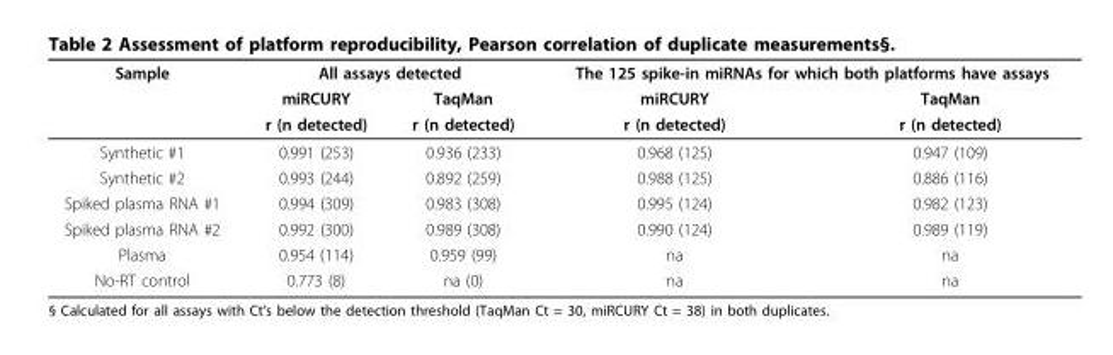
<table><thead><tr><td rowspan="3">Sample</td><td colspan="2">All assays detected</td><td colspan="2">The 125 spike-in miRNAs for which both platforms have assays</td></tr><tr><td rowspan="2">miRCURY r (n detected)</td><td rowspan="2">TaqMan r (n detected)</td><td rowspan="2">miRCURY r (n detected)</td><td rowspan="2">TaqMan r (n detected)</td></tr><tr></tr></thead><tbody><tr><td>Synthetic #1</td><td>0.991 (253)</td><td>0.936 (233)</td><td>0.968 (125)</td><td>0.947 (109)</td></tr><tr><td>Synthetic #2</td><td>0.993 (244)</td><td>0.892 (259)</td><td>0.988 (125)</td><td>0.886 (116)</td></tr><tr><td>Spiked plasma RNA #1</td><td>0.994 (309)</td><td>0.983 (308)</td><td>0.995 (124)</td><td>0.982 (123)</td></tr><tr><td>Spiked plasma RNA #2</td><td>0.992 (300)</td><td>0.989 (308)</td><td>0.990 (124)</td><td>0.989 (119)</td></tr><tr><td>Plasma</td><td>0.954 (114)</td><td>0.959 (99)</td><td>na</td><td>na</td></tr><tr><td>No-RT control</td><td>0.773 (8)</td><td>na (0)</td><td>na</td><td>na</td></tr></tbody></table>